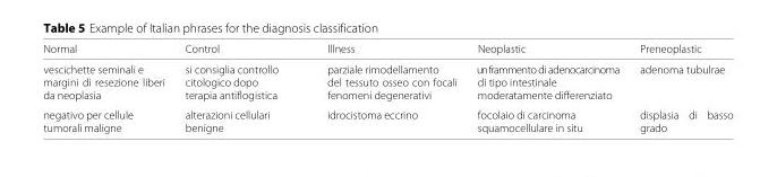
<table><thead><tr><td>Normal</td><td>Control</td><td>Illness</td><td>Neoplastic</td><td>Preneoplastic</td></tr></thead><tbody><tr><td>vescichette seminali e margini di resezione liberi da neoplasia</td><td>si consiglia controllo citologico dopo terapia antiflogistica</td><td>parziale rimodellamento del tessuto osseo con focali fenomeni degenerativi</td><td>unframmentodiadenocarcinoma di tipo intestinale moderatamente differenziato</td><td>adenoma tubulrae</td></tr><tr><td>negativo per cellule tumorali maligne</td><td>alterazioni cellulari benigne</td><td>idrocistoma eccrino</td><td>focolaio di carcinoma squamocellulare in situ</td><td>displasia di basso grado</td></tr></tbody></table>